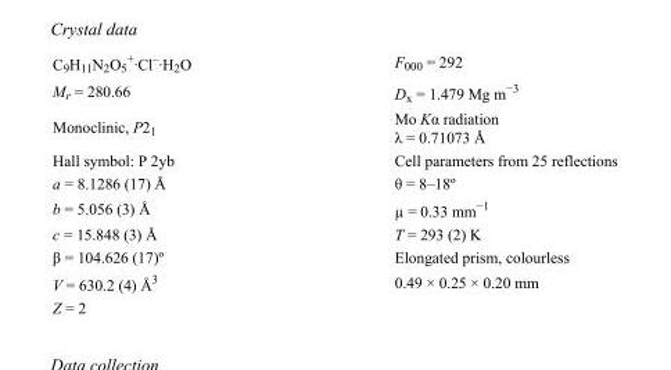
<table><tbody><tr><td>C<sub>9</sub>H<sub>11</sub>N<sub>2</sub>O<sub>5</sub> <sup>+</sup>·Cl<sup>–</sup>·H<sub>2</sub>O</td><td>F<sub>000</sub> = 292</td></tr><tr><td>M<sub>r</sub> = 280.66</td><td>D<sub>x</sub> = 1.479 Mg m<sup>−3</sup></td></tr><tr><td>Monoclinic, P2<sub>1</sub></td><td>Mo Kα radiation λ = 0.71073 Å</td></tr><tr><td>Hall symbol: P 2yb</td><td>Cell parameters from 25 reflections</td></tr><tr><td>a = 8.1286 (17) Å</td><td>θ = 8–18º</td></tr><tr><td>b = 5.056 (3) Å</td><td>µ = 0.33 mm<sup>−1</sup></td></tr><tr><td>c = 15.848 (3) Å</td><td>T = 293 (2) K</td></tr><tr><td>β = 104.626 (17)º</td><td>Elongated prism, colourless</td></tr><tr><td>V = 630.2 (4) Å<sup>3</sup></td><td>0.49 × 0.25 × 0.20 mm</td></tr><tr><td>Z = 2</td><td></td></tr></tbody></table>